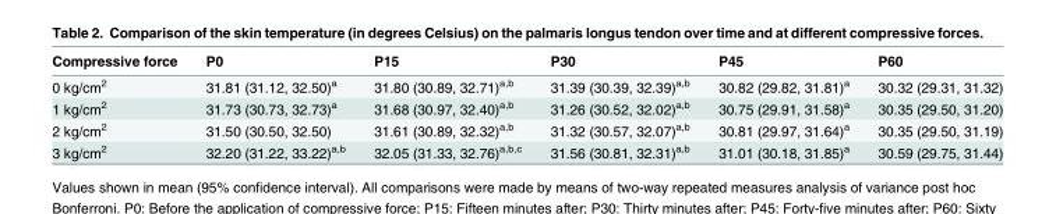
<table><thead><tr><td>Compressive force</td><td>P0</td><td>P15</td><td>P30</td><td>P45</td><td>P60</td></tr></thead><tbody><tr><td>0 kg/cm<sup>2</sup></td><td>31.81 (31.12, 32.50)<sup>a</sup></td><td>31.80 (30.89, 32.71)<sup>a,b</sup></td><td>31.39 (30.39, 32.39)<sup>a,b</sup></td><td>30.82 (29.82, 31.81)<sup>a</sup></td><td>30.32 (29.31, 31.32)</td></tr><tr><td>1 kg/cm<sup>2</sup></td><td>31.73 (30.73, 32.73)<sup>a</sup></td><td>31.68 (30.97, 32.40)<sup>a,b</sup></td><td>31.26 (30.52, 32.02)<sup>a,b</sup></td><td>30.75 (29.91, 31.58)<sup>a</sup></td><td>30.35 (29.50, 31.20)</td></tr><tr><td>2 kg/cm<sup>2</sup></td><td>31.50 (30.50, 32.50)</td><td>31.61 (30.89, 32.32)<sup>a,b</sup></td><td>31.32 (30.57, 32.07)<sup>a,b</sup></td><td>30.81 (29.97, 31.64)<sup>a</sup></td><td>30.35 (29.50, 31.19)</td></tr><tr><td>3 kg/cm<sup>2</sup></td><td>32.20 (31.22, 33.22)<sup>a,b</sup></td><td>32.05 (31.33, 32.76)<sup>a,b,c</sup></td><td>31.56 (30.81, 32.31)<sup>a,b</sup></td><td>31.01 (30.18, 31.85)<sup>a</sup></td><td>30.59 (29.75, 31.44)</td></tr></tbody></table>